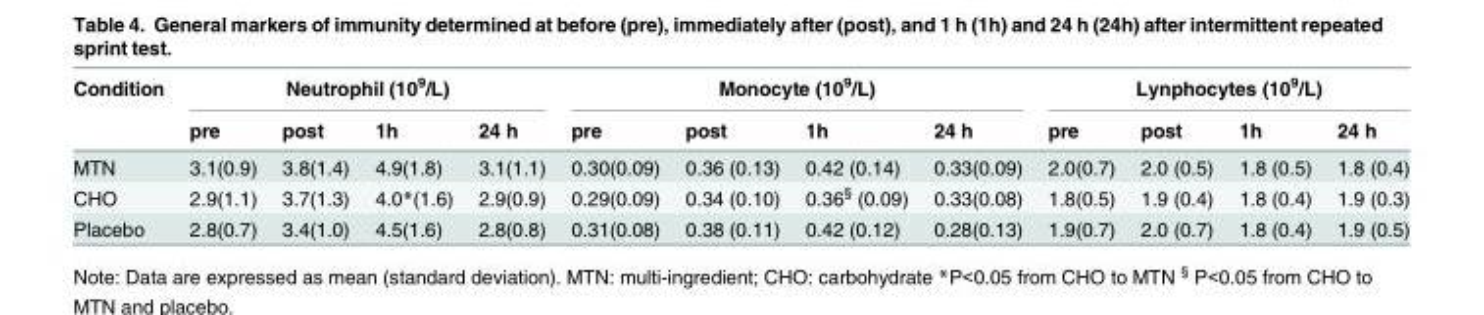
<table><thead><tr><td rowspan="2">Condition</td><td colspan="4">Neutrophil (10<sup>9</sup>/L)</td><td colspan="4">Monocyte (10<sup>9</sup>/L)</td><td colspan="4">Lynphocytes (10<sup>9</sup>/L)</td></tr><tr><td>pre</td><td>post</td><td>1h</td><td>24 h</td><td>pre</td><td>post</td><td>1h</td><td>24 h</td><td>pre</td><td>post</td><td>1h</td><td>24 h</td></tr></thead><tbody><tr><td>MTN</td><td>3.1(0.9)</td><td>3.8(1.4)</td><td>4.9(1.8)</td><td>3.1(1.1)</td><td>0.30(0.09)</td><td>0.36 (0.13)</td><td>0.42 (0.14)</td><td>0.33(0.09)</td><td>2.0(0.7)</td><td>2.0 (0.5)</td><td>1.8 (0.5)</td><td>1.8 (0.4)</td></tr><tr><td>CHO</td><td>2.9(1.1)</td><td>3.7(1.3)</td><td>4.0*(1.6)</td><td>2.9(0.9)</td><td>0.29(0.09)</td><td>0.34 (0.10)</td><td>0.36<sup>§</sup> (0.09)</td><td>0.33(0.08)</td><td>1.8(0.5)</td><td>1.9 (0.4)</td><td>1.8 (0.4)</td><td>1.9 (0.3)</td></tr><tr><td>Placebo</td><td>2.8(0.7)</td><td>3.4(1.0)</td><td>4.5(1.6)</td><td>2.8(0.8)</td><td>0.31(0.08)</td><td>0.38 (0.11)</td><td>0.42 (0.12)</td><td>0.28(0.13)</td><td>1.9(0.7)</td><td>2.0 (0.7)</td><td>1.8 (0.4)</td><td>1.9 (0.5)</td></tr></tbody></table>